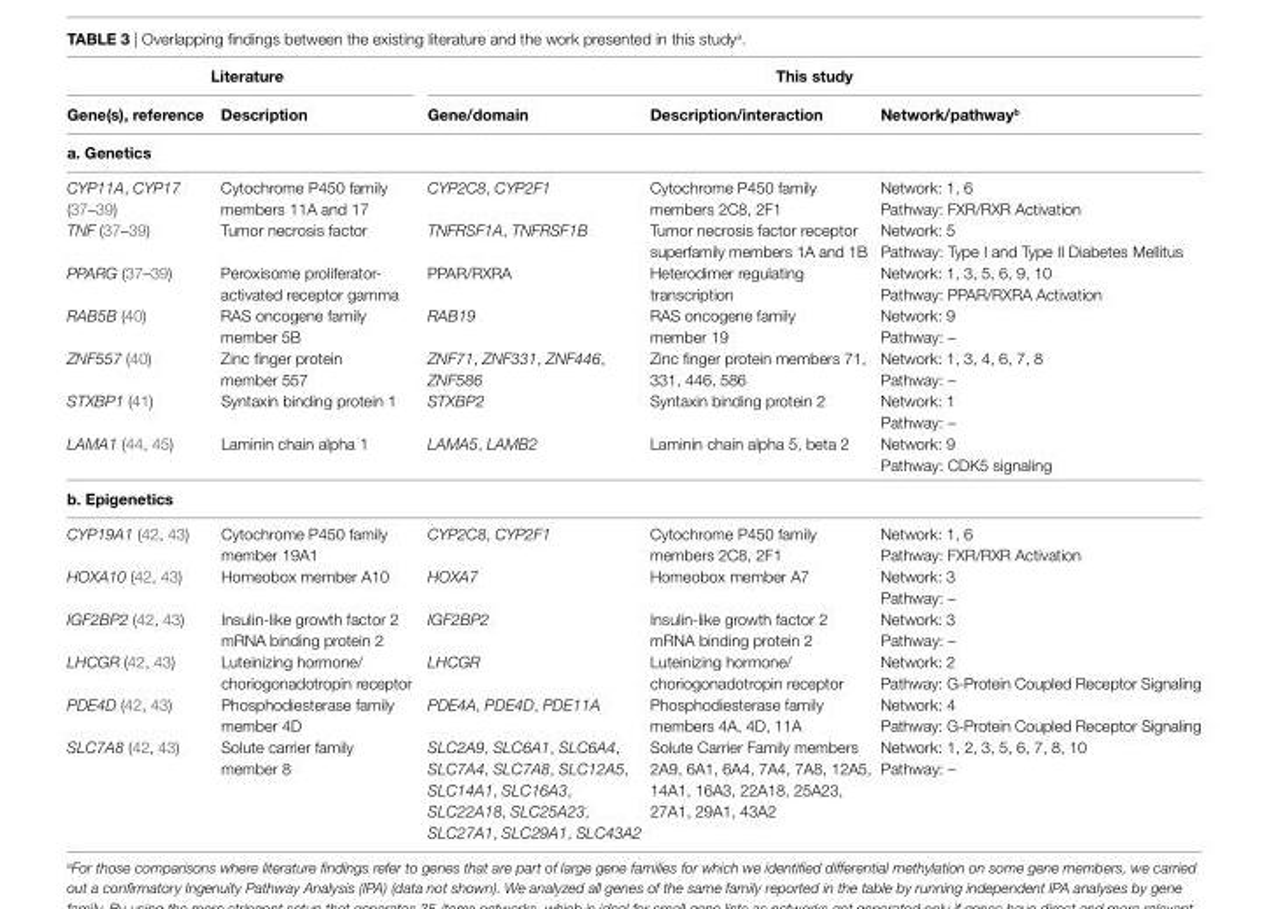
<table><thead><tr><td colspan="2">literature</td><td colspan="3">This study</td></tr><tr><td>gene(s), reference</td><td>Description</td><td>gene/domain</td><td>Description/interaction</td><td>network/pathway<sup>b</sup></td></tr></thead><tbody><tr><td colspan="5">a. genetics</td></tr><tr><td rowspan="2">CYP11A, CYP17 (37–39)</td><td rowspan="2">Cytochrome P450 family members 11A and 17</td><td rowspan="2">CYP2C8, CYP2F1</td><td rowspan="2">Cytochrome P450 family members 2C8, 2F1</td><td>Network: 1, 6</td></tr><tr><td>Pathway: FXR/RXR Activation</td></tr><tr><td rowspan="2">TNF (37–39)</td><td rowspan="2">Tumor necrosis factor</td><td rowspan="2">TNFRSF1A, TNFRSF1B</td><td rowspan="2">Tumor necrosis factor receptor superfamily members 1A and 1B</td><td>Network: 5</td></tr><tr><td>Pathway: Type I and Type II Diabetes Mellitus</td></tr><tr><td rowspan="2">PPARG (37–39)</td><td rowspan="2">Peroxisome proliferator- activated receptor gamma</td><td rowspan="2">PPAR/RXRA</td><td rowspan="2">Heterodimer regulating transcription</td><td>Network: 1, 3, 5, 6, 9, 10</td></tr><tr><td>Pathway: PPAR/RXRA Activation</td></tr><tr><td rowspan="2">RAB5B (40)</td><td rowspan="2">RAS oncogene family member 5B</td><td rowspan="2">RAB19</td><td rowspan="2">RAS oncogene family member 19</td><td>Network: 9</td></tr><tr><td>Pathway: –</td></tr><tr><td rowspan="2">ZNF557 (40)</td><td rowspan="2">Zinc finger protein member 557</td><td rowspan="2">ZNF71, ZNF331, ZNF446, ZNF586</td><td rowspan="2">Zinc finger protein members 71, 331, 446, 586</td><td>Network: 1, 3, 4, 6, 7, 8</td></tr><tr><td>Pathway: –</td></tr><tr><td rowspan="2">STXBP1 (41)</td><td rowspan="2">Syntaxin binding protein 1</td><td rowspan="2">STXBP2</td><td rowspan="2">Syntaxin binding protein 2</td><td>Network: 1</td></tr><tr><td>Pathway: –</td></tr><tr><td rowspan="2">LAMA1 (44, 45)</td><td rowspan="2">Laminin chain alpha 1</td><td rowspan="2">LAMA5, LAMB2</td><td rowspan="2">Laminin chain alpha 5, beta 2</td><td>Network: 9</td></tr><tr><td>Pathway: CDK5 signaling</td></tr><tr><td colspan="5">b. epigenetics</td></tr><tr><td rowspan="2">CYP19A1 (42, 43)</td><td rowspan="2">Cytochrome P450 family member 19A1</td><td rowspan="2">CYP2C8, CYP2F1</td><td rowspan="2">Cytochrome P450 family members 2C8, 2F1</td><td>Network: 1, 6</td></tr><tr><td>Pathway: FXR/RXR Activation</td></tr><tr><td rowspan="2">HOXA10 (42, 43)</td><td rowspan="2">Homeobox member A10</td><td rowspan="2">HOXA7</td><td rowspan="2">Homeobox member A7</td><td>Network: 3</td></tr><tr><td>Pathway: –</td></tr><tr><td rowspan="2">IGF2BP2 (42, 43)</td><td rowspan="2">Insulin-like growth factor 2 mRNA binding protein 2</td><td rowspan="2">IGF2BP2</td><td rowspan="2">Insulin-like growth factor 2 mRNA binding protein 2</td><td>Network: 3</td></tr><tr><td>Pathway: –</td></tr><tr><td rowspan="2">LHCGR (42, 43)</td><td rowspan="2">Luteinizing hormone/ choriogonadotropin receptor</td><td rowspan="2">LHCGR</td><td rowspan="2">Luteinizing hormone/ choriogonadotropin receptor</td><td>Network: 2</td></tr><tr><td>Pathway: G-Protein Coupled Receptor Signaling</td></tr><tr><td rowspan="2">PDE4D (42, 43)</td><td rowspan="2">Phosphodiesterase family member 4D</td><td rowspan="2">PDE4A, PDE4D, PDE11A</td><td rowspan="2">Phosphodiesterase family members 4A, 4D, 11A</td><td>Network: 4</td></tr><tr><td>Pathway: G-Protein Coupled Receptor Signaling</td></tr><tr><td rowspan="2">SLC7A8 (42, 43)</td><td rowspan="2">Solute carrier family member 8</td><td rowspan="2">SLC2A9, SLC6A1, SLC6A4, SLC7A4, SLC7A8, SLC12A5, SLC14A1, SLC16A3, SLC22A18, SLC25A23, SLC27A1, SLC29A1, SLC43A2</td><td rowspan="2">Solute Carrier Family members 2A9, 6A1, 6A4, 7A4, 7A8, 12A5, 14A1, 16A3, 22A18, 25A23, 27A1, 29A1, 43A2</td><td>Network: 1, 2, 3, 5, 6, 7, 8, 10</td></tr><tr><td>Pathway: –</td></tr></tbody></table>